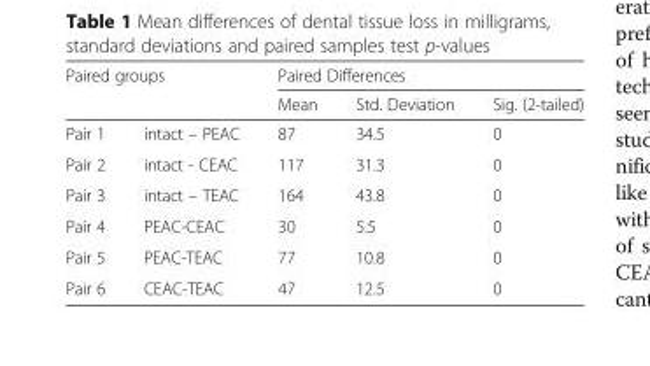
<table><thead><tr><td rowspan="2" colspan="2">Paired groups</td><td colspan="3">Paired Differences</td></tr><tr><td rowspan="2">Mean 87</td><td rowspan="2">Std. Deviation 34.5</td><td rowspan="2">Sig. (2-tailed) 0</td></tr><tr><td>Pair 1</td><td>intact – PEAC</td></tr></thead><tbody><tr><td>Pair 2</td><td>intact - CEAC</td><td>117</td><td>31.3</td><td>0</td></tr><tr><td>Pair 3</td><td>intact – TEAC</td><td>164</td><td>43.8</td><td>0</td></tr><tr><td>Pair 4</td><td>PEAC-CEAC</td><td>30</td><td>5.5</td><td>0</td></tr><tr><td>Pair 5</td><td>PEAC-TEAC</td><td>77</td><td>10.8</td><td>0</td></tr><tr><td>Pair 6</td><td>CEAC-TEAC</td><td>47</td><td>12.5</td><td>0</td></tr></tbody></table>